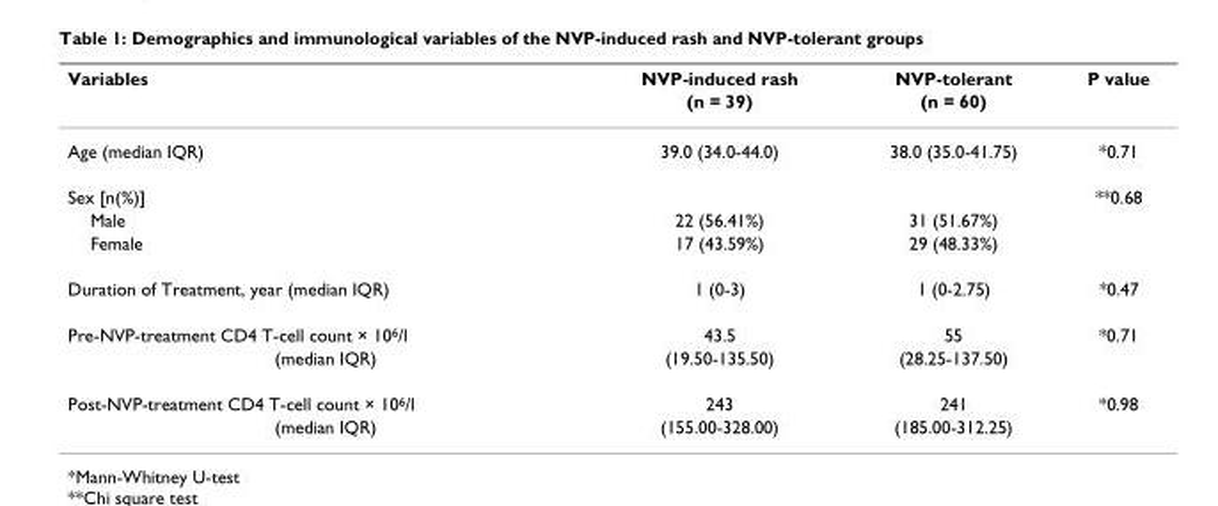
<table><thead><tr><td rowspan="2">Variables</td><td rowspan="2">NVP-induced rash (n = 39)</td><td rowspan="2">NVP-tolerant (n = 60)</td><td rowspan="2">P value</td></tr><tr></tr></thead><tbody><tr><td>Age (median IQR)</td><td>39.0 (34.0-44.0)</td><td>38.0 (35.0-41.75)</td><td>*0.71</td></tr><tr><td>Sex [n(%)]</td><td></td><td></td><td>**0.68</td></tr><tr><td>Male</td><td>22 (56.41%)</td><td>31 (51.67%)</td><td></td></tr><tr><td>Female</td><td>17 (43.59%)</td><td>29 (48.33%)</td><td></td></tr><tr><td>Duration of Treatment, year (median IQR)</td><td>1 (0-3)</td><td>1 (0-2.75)</td><td>*0.47</td></tr><tr><td>Pre-NVP-treatment CD4 T-cell count × 10<sup>6</sup>/l</td><td>43.5</td><td>55</td><td>*0.71</td></tr><tr><td>(median IQR)</td><td>(19.50-135.50)</td><td>(28.25-137.50)</td><td></td></tr><tr><td>Post-NVP-treatment CD4 T-cell count × 10<sup>6</sup>/l</td><td>243</td><td>241</td><td>*0.98</td></tr><tr><td>(median IQR)</td><td>(155.00-328.00)</td><td>(185.00-312.25)</td><td></td></tr></tbody></table>